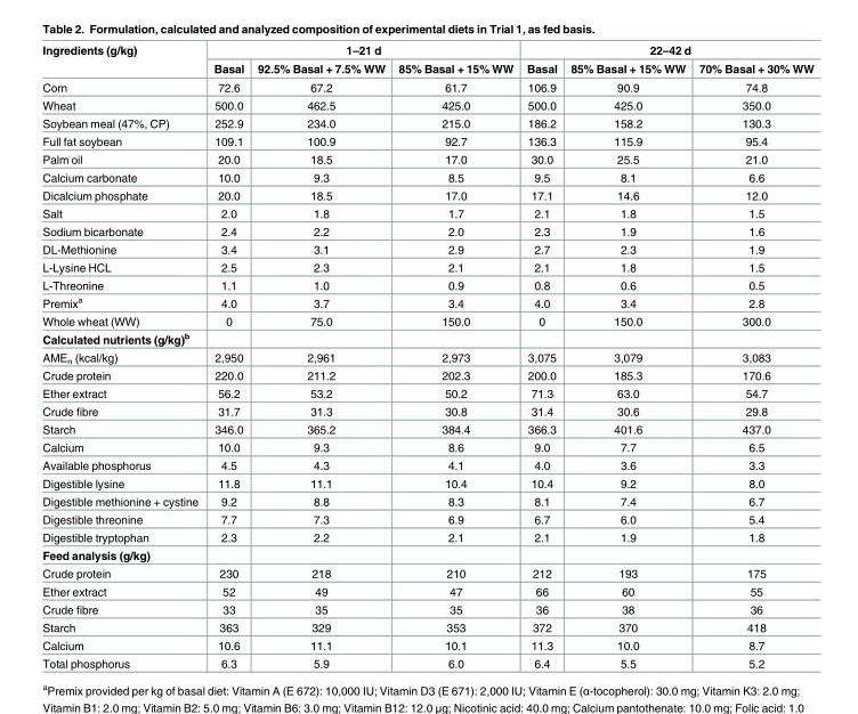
<table><thead><tr><td rowspan="2">Ingredients (g/kg)</td><td colspan="3">1–21 d</td><td colspan="3">22–42 d</td></tr><tr><td>Basal</td><td>92.5% Basal + 7.5% WW</td><td>85% Basal + 15% WW</td><td>Basal</td><td>85% Basal + 15% WW</td><td>70% Basal + 30% WW</td></tr></thead><tbody><tr><td>Corn</td><td>72.6</td><td>67.2</td><td>61.7</td><td>106.9</td><td>90.9</td><td>74.8</td></tr><tr><td>Wheat</td><td>500.0</td><td>462.5</td><td>425.0</td><td>500.0</td><td>425.0</td><td>350.0</td></tr><tr><td>Soybean meal (47%, CP)</td><td>252.9</td><td>234.0</td><td>215.0</td><td>186.2</td><td>158.2</td><td>130.3</td></tr><tr><td>Full fat soybean</td><td>109.1</td><td>100.9</td><td>92.7</td><td>136.3</td><td>115.9</td><td>95.4</td></tr><tr><td>Palm oil</td><td>20.0</td><td>18.5</td><td>17.0</td><td>30.0</td><td>25.5</td><td>21.0</td></tr><tr><td>Calcium carbonate</td><td>10.0</td><td>9.3</td><td>8.5</td><td>9.5</td><td>8.1</td><td>6.6</td></tr><tr><td>Dicalcium phosphate</td><td>20.0</td><td>18.5</td><td>17.0</td><td>17.1</td><td>14.6</td><td>12.0</td></tr><tr><td>Salt</td><td>2.0</td><td>1.8</td><td>1.7</td><td>2.1</td><td>1.8</td><td>1.5</td></tr><tr><td>Sodium bicarbonate</td><td>2.4</td><td>2.2</td><td>2.0</td><td>2.3</td><td>1.9</td><td>1.6</td></tr><tr><td>DL-Methionine</td><td>3.4</td><td>3.1</td><td>2.9</td><td>2.7</td><td>2.3</td><td>1.9</td></tr><tr><td>L-Lysine HCL</td><td>2.5</td><td>2.3</td><td>2.1</td><td>2.1</td><td>1.8</td><td>1.5</td></tr><tr><td>L-Threonine</td><td>1.1</td><td>1.0</td><td>0.9</td><td>0.8</td><td>0.6</td><td>0.5</td></tr><tr><td>Premix<sup>a</sup></td><td>4.0</td><td>3.7</td><td>3.4</td><td>4.0</td><td>3.4</td><td>2.8</td></tr><tr><td>Whole wheat (WW)</td><td>0</td><td>75.0</td><td>150.0</td><td>0</td><td>150.0</td><td>300.0</td></tr><tr><td colspan="7">Calculated nutrients (g/kg)<sup>b</sup></td></tr><tr><td>AME<sub>n</sub> (kcal/kg)</td><td>2,950</td><td>2,961</td><td>2,973</td><td>3,075</td><td>3,079</td><td>3,083</td></tr><tr><td>Crude protein</td><td>220.0</td><td>211.2</td><td>202.3</td><td>200.0</td><td>185.3</td><td>170.6</td></tr><tr><td>Ether extract</td><td>56.2</td><td>53.2</td><td>50.2</td><td>71.3</td><td>63.0</td><td>54.7</td></tr><tr><td>Crude fibre</td><td>31.7</td><td>31.3</td><td>30.8</td><td>31.4</td><td>30.6</td><td>29.8</td></tr><tr><td>Starch</td><td>346.0</td><td>365.2</td><td>384.4</td><td>366.3</td><td>401.6</td><td>437.0</td></tr><tr><td>Calcium</td><td>10.0</td><td>9.3</td><td>8.6</td><td>9.0</td><td>7.7</td><td>6.5</td></tr><tr><td>Available phosphorus</td><td>4.5</td><td>4.3</td><td>4.1</td><td>4.0</td><td>3.6</td><td>3.3</td></tr><tr><td>Digestible lysine</td><td>11.8</td><td>11.1</td><td>10.4</td><td>10.4</td><td>9.2</td><td>8.0</td></tr><tr><td>Digestible methionine + cystine</td><td>9.2</td><td>8.8</td><td>8.3</td><td>8.1</td><td>7.4</td><td>6.7</td></tr><tr><td>Digestible threonine</td><td>7.7</td><td>7.3</td><td>6.9</td><td>6.7</td><td>6.0</td><td>5.4</td></tr><tr><td>Digestible tryptophan</td><td>2.3</td><td>2.2</td><td>2.1</td><td>2.1</td><td>1.9</td><td>1.8</td></tr><tr><td colspan="7">Feed analysis (g/kg)</td></tr><tr><td>Crude protein</td><td>230</td><td>218</td><td>210</td><td>212</td><td>193</td><td>175</td></tr><tr><td>Ether extract</td><td>52</td><td>49</td><td>47</td><td>66</td><td>60</td><td>55</td></tr><tr><td>Crude fibre</td><td>33</td><td>35</td><td>35</td><td>36</td><td>38</td><td>36</td></tr><tr><td>Starch</td><td>363</td><td>329</td><td>353</td><td>372</td><td>370</td><td>418</td></tr><tr><td>Calcium</td><td>10.6</td><td>11.1</td><td>10.1</td><td>11.3</td><td>10.0</td><td>8.7</td></tr><tr><td>Total phosphorus</td><td>6.3</td><td>5.9</td><td>6.0</td><td>6.4</td><td>5.5</td><td>5.2</td></tr></tbody></table>